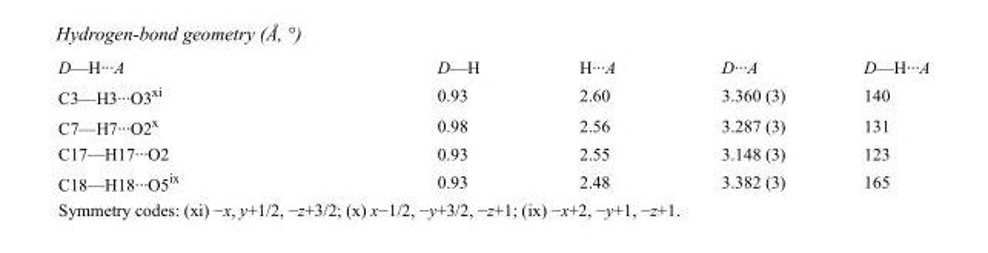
<table><tbody><tr><td>D—H···A</td><td>D—H</td><td>H···A</td><td>D···A</td><td>D—H···A</td></tr><tr><td>C3—H3···O3<sup>xi</sup></td><td>0.93</td><td>2.60</td><td>3.360 (3)</td><td>140</td></tr><tr><td>C7—H7···O2<sup>x</sup></td><td>0.98</td><td>2.56</td><td>3.287 (3)</td><td>131</td></tr><tr><td>C17—H17···O2</td><td>0.93</td><td>2.55</td><td>3.148 (3)</td><td>123</td></tr><tr><td>C18—H18···O5<sup>ix</sup></td><td>0.93</td><td>2.48</td><td>3.382 (3)</td><td>165</td></tr></tbody></table>